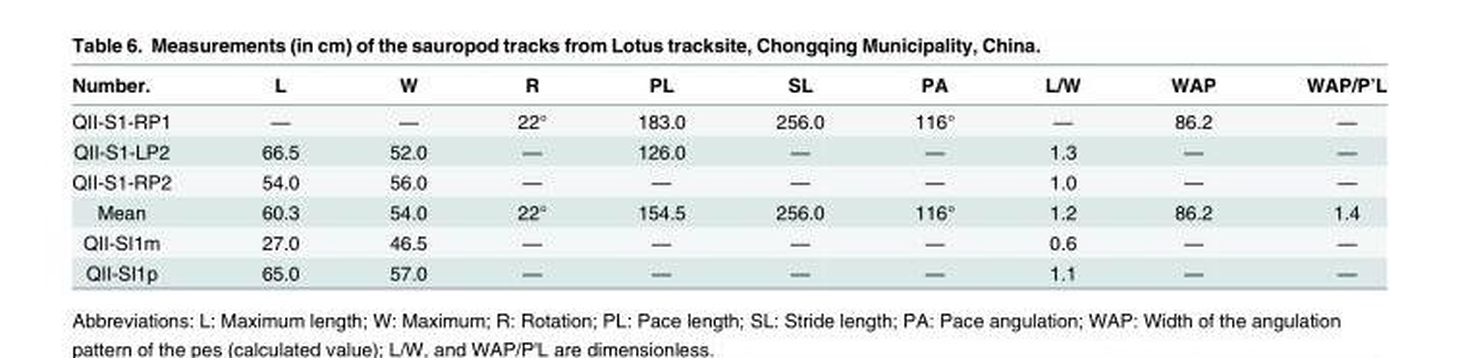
<table><thead><tr><td>Number.</td><td>L</td><td>W</td><td>R</td><td>PL</td><td>SL</td><td>PA</td><td>L/W</td><td>WAP</td><td>WAP/P’L</td></tr></thead><tbody><tr><td>QII-S1-RP1</td><td>—</td><td>—</td><td>22°</td><td>183.0</td><td>256.0</td><td>116°</td><td>—</td><td>86.2</td><td>—</td></tr><tr><td>QII-S1-LP2</td><td>66.5</td><td>52.0</td><td>—</td><td>126.0</td><td>—</td><td>—</td><td>1.3</td><td>—</td><td>—</td></tr><tr><td>QII-S1-RP2</td><td>54.0</td><td>56.0</td><td>—</td><td>—</td><td>—</td><td>—</td><td>1.0</td><td>—</td><td>—</td></tr><tr><td>Mean</td><td>60.3</td><td>54.0</td><td>22°</td><td>154.5</td><td>256.0</td><td>116°</td><td>1.2</td><td>86.2</td><td>1.4</td></tr><tr><td>QII-SI1m</td><td>27.0</td><td>46.5</td><td>—</td><td>—</td><td>—</td><td>—</td><td>0.6</td><td>—</td><td>—</td></tr><tr><td>QII-SI1p</td><td>65.0</td><td>57.0</td><td>—</td><td>—</td><td>—</td><td>—</td><td>1.1</td><td>—</td><td>—</td></tr></tbody></table>